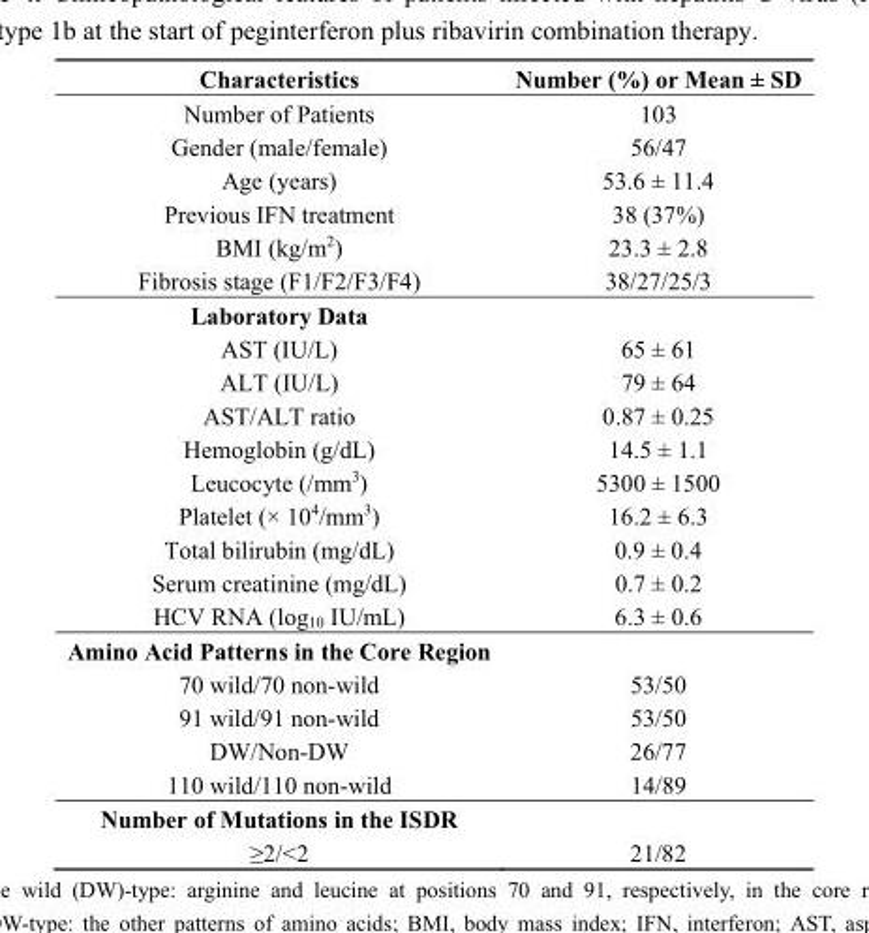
<table><thead><tr><td>Characteristics</td><td>Number (%) or Mean ± SD</td></tr></thead><tbody><tr><td>Number of Patients</td><td>103</td></tr><tr><td>Gender (male/female)</td><td>56/47</td></tr><tr><td>Age (years)</td><td>53.6 ± 11.4</td></tr><tr><td>Previous IFN treatment</td><td>38 (37%)</td></tr><tr><td>BMI (kg/m<sup>2</sup>)</td><td>23.3 ± 2.8</td></tr><tr><td>Fibrosis stage (F1/F2/F3/F4)</td><td>38/27/25/3</td></tr><tr><td colspan="2">Laboratory Data</td></tr><tr><td>AST (IU/L)</td><td>65 ± 61</td></tr><tr><td>ALT (IU/L)</td><td>79 ± 64</td></tr><tr><td>AST/ALT ratio</td><td>0.87 ± 0.25</td></tr><tr><td>Hemoglobin (g/dL)</td><td>14.5 ± 1.1</td></tr><tr><td>Leucocyte (/mm<sup>3</sup>)</td><td>5300 ± 1500</td></tr><tr><td>Platelet (× 10<sup>4</sup>/mm<sup>3</sup>)</td><td>16.2 ± 6.3</td></tr><tr><td>Total bilirubin (mg/dL)</td><td>0.9 ± 0.4</td></tr><tr><td>Serum creatinine (mg/dL)</td><td>0.7 ± 0.2</td></tr><tr><td>HCV RNA (log<sub>10</sub> IU/mL)</td><td>6.3 ± 0.6</td></tr><tr><td colspan="2">Amino Acid Patterns in the Core Region</td></tr><tr><td>70 wild/70 non-wild</td><td>53/50</td></tr><tr><td>91 wild/91 non-wild</td><td>53/50</td></tr><tr><td>DW/Non-DW</td><td>26/77</td></tr><tr><td>110 wild/110 non-wild</td><td>14/89</td></tr><tr><td colspan="2">Number of Mutations in the ISDR</td></tr><tr><td>≥2/&lt;2</td><td>21/82</td></tr></tbody></table>